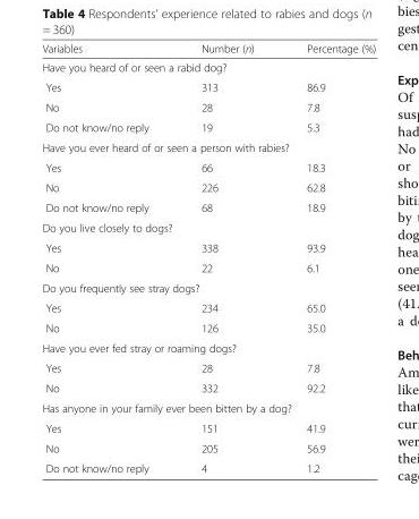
<table><thead><tr><td>Variables</td><td>Number (n)</td><td>Percentage (%)</td></tr></thead><tbody><tr><td colspan="3">Have you heard of or seen a rabid dog?</td></tr><tr><td>Yes</td><td>313</td><td>86.9</td></tr><tr><td>No</td><td>28</td><td>7.8</td></tr><tr><td>Do not know/no reply</td><td>19</td><td>5.3</td></tr><tr><td colspan="3">Have you ever heard of or seen a person with rabies?</td></tr><tr><td>Yes</td><td>66</td><td>18.3</td></tr><tr><td>No</td><td>226</td><td>62.8</td></tr><tr><td>Do not know/no reply</td><td>68</td><td>18.9</td></tr><tr><td colspan="3">Do you live closely to dogs?</td></tr><tr><td>Yes</td><td>338</td><td>93.9</td></tr><tr><td>No</td><td>22</td><td>6.1</td></tr><tr><td colspan="3">Do you frequently see stray dogs?</td></tr><tr><td>Yes</td><td>234</td><td>65.0</td></tr><tr><td>No</td><td>126</td><td>35.0</td></tr><tr><td colspan="3">Have you ever fed stray or roaming dogs?</td></tr><tr><td>Yes</td><td>28</td><td>7.8</td></tr><tr><td>No</td><td>332</td><td>92.2</td></tr><tr><td colspan="3">Has anyone in your family ever been bitten by a dog?</td></tr><tr><td>Yes</td><td>151</td><td>41.9</td></tr><tr><td>No</td><td>205</td><td>56.9</td></tr><tr><td>Do not know/no reply</td><td>4</td><td>1.2</td></tr></tbody></table>